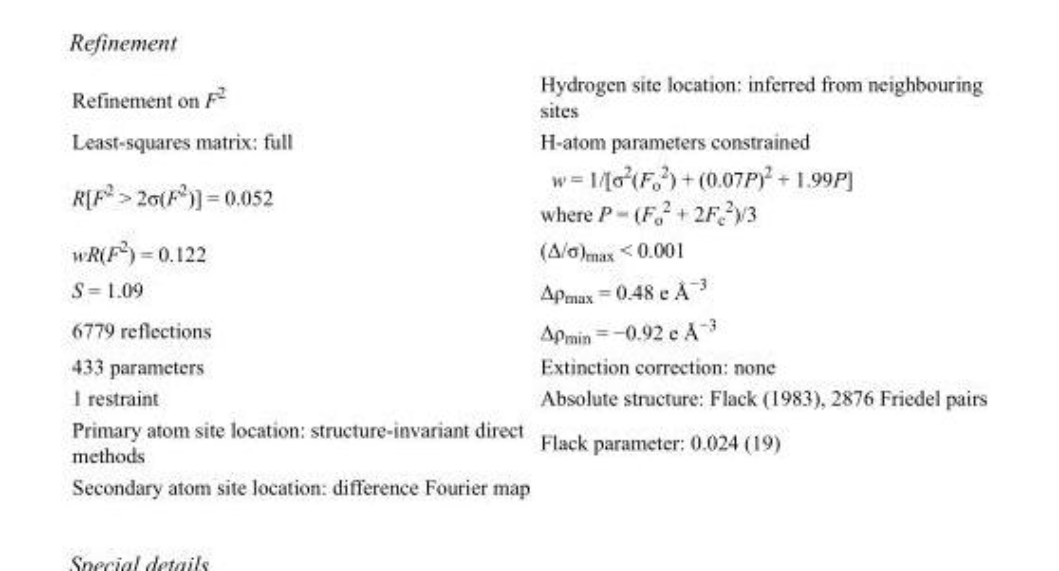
<table><tbody><tr><td>Refinement on F<sup>2</sup></td><td>Hydrogen site location: inferred from neighbouring sites</td></tr><tr><td>Least-squares matrix: full</td><td>H-atom parameters constrained</td></tr><tr><td>R[F<sup>2</sup> &gt; 2σ(F<sup>2</sup>)] = 0.052</td><td>w = 1/[σ<sup>2</sup>(F<sub>o</sub> <sup>2</sup>) + (0.07P)<sup>2</sup> + 1.99P] where P = (F<sub>o</sub> <sup>2</sup> + 2F<sub>c</sub> <sup>2</sup>)/3</td></tr><tr><td>wR(F<sup>2</sup>) = 0.122</td><td>(Δ/σ)<sub>max</sub> &lt; 0.001</td></tr><tr><td>S = 1.09</td><td>Δρ<sub>max</sub> = 0.48 e Å<sup>−3</sup></td></tr><tr><td>6779 reflections</td><td>Δρ<sub>min</sub> = −0.92 e Å<sup>−3</sup></td></tr><tr><td>433 parameters</td><td>Extinction correction: none</td></tr><tr><td>1 restraint</td><td>Absolute structure: Flack (1983), 2876 Friedel pairs</td></tr><tr><td>Primary atom site location: structure-invariant direct methods</td><td>Flack parameter: 0.024 (19)</td></tr><tr><td>Secondary atom site location: difference Fourier map</td><td></td></tr></tbody></table>